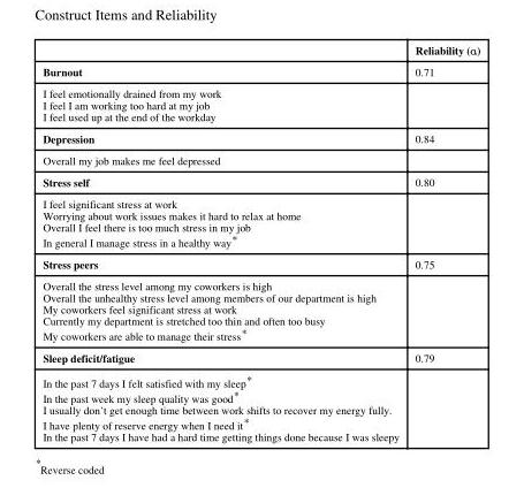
<table><thead><tr><td></td><td>Reliability (α)</td></tr></thead><tbody><tr><td>Burnout</td><td>0.71</td></tr><tr><td colspan="2">I feel emotionally drained from my work I feel I am working too hard at my job I feel used up at the end of the workday</td></tr><tr><td>Depression</td><td>0.84</td></tr><tr><td colspan="2">Overall my job makes me feel depressed</td></tr><tr><td>Stress self</td><td>0.80</td></tr><tr><td colspan="2">I feel significant stress at work Worrying about work issues makes it hard to relax at home Overall I feel there is too much stress in my job In general I manage stress in a healthy way*</td></tr><tr><td>Stress peers</td><td>0.75</td></tr><tr><td colspan="2">Overall the stress level among my coworkers is high Overall the unhealthy stress level among members of our department is high My coworkers feel significant stress at work Currently my department is stretched too thin and often too busy My coworkers are able to manage their stress*</td></tr><tr><td>Sleep deficit/fatigue</td><td>0.79</td></tr><tr><td>In the past 7 days I felt satisfied with my sleep* In the past week my sleep quality was good* I usually don’t get enough time between work shifts to recover my energy fully. I have plenty of reserve energy when I need it* In the past 7 days I have had a hard time getting things done because I was sleepy</td><td></td></tr></tbody></table>